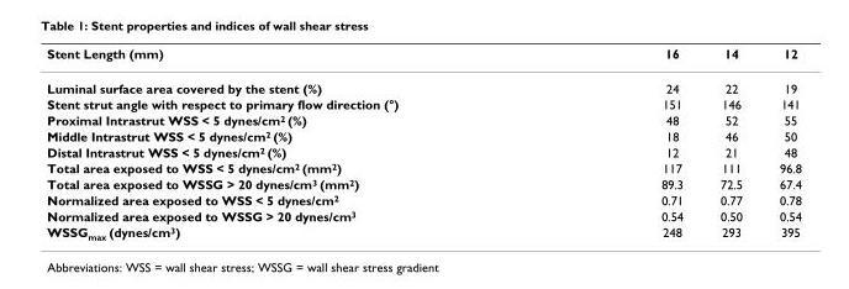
<table><thead><tr><td>Stent Length (mm)</td><td>16</td><td>14</td><td>12</td></tr></thead><tbody><tr><td>Luminal surface area covered by the stent (%)</td><td>24</td><td>22</td><td>19</td></tr><tr><td>Stent strut angle with respect to primary flow direction (°)</td><td>151</td><td>146</td><td>141</td></tr><tr><td>Proximal Intrastrut WSS &lt; 5 dynes/cm<sup>2</sup> (%)</td><td>48</td><td>52</td><td>55</td></tr><tr><td>Middle Intrastrut WSS &lt; 5 dynes/cm<sup>2</sup> (%)</td><td>18</td><td>46</td><td>50</td></tr><tr><td>Distal Intrastrut WSS &lt; 5 dynes/cm<sup>2</sup> (%)</td><td>12</td><td>21</td><td>48</td></tr><tr><td>Total area exposed to WSS &lt; 5 dynes/cm<sup>2</sup> (mm<sup>2</sup>)</td><td>117</td><td>111</td><td>96.8</td></tr><tr><td>Total area exposed to WSSG &gt; 20 dynes/cm<sup>3</sup> (mm<sup>2</sup>)</td><td>89.3</td><td>72.5</td><td>67.4</td></tr><tr><td>Normalized area exposed to WSS &lt; 5 dynes/cm<sup>2</sup></td><td>0.71</td><td>0.77</td><td>0.78</td></tr><tr><td>Normalized area exposed to WSSG &gt; 20 dynes/cm<sup>3</sup></td><td>0.54</td><td>0.50</td><td>0.54</td></tr><tr><td>WSSG<sub>max</sub> (dynes/cm<sup>3</sup>)</td><td>248</td><td>293</td><td>395</td></tr></tbody></table>